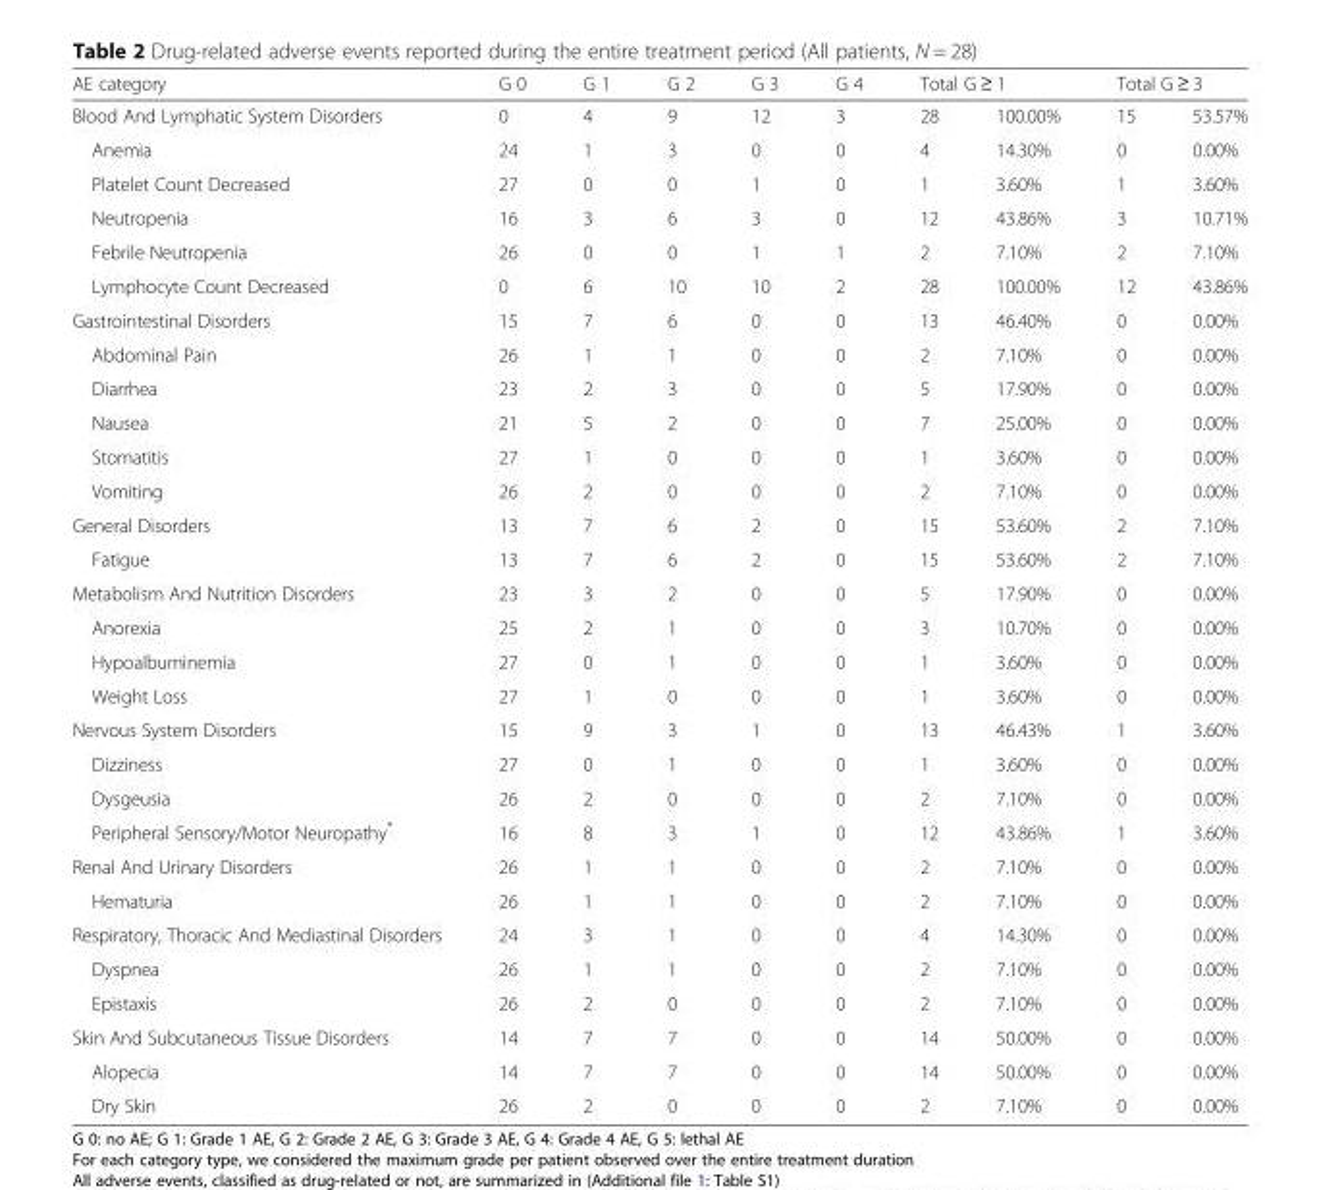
<table><thead><tr><td rowspan="2">AE category Blood And Lymphatic System Disorders</td><td rowspan="2">G 0 0</td><td rowspan="2">G 1 4</td><td rowspan="2">G 2 9</td><td rowspan="2">G 3 12</td><td rowspan="2">G 4 3</td><td colspan="2">Total G ≥ 1</td><td colspan="2">Total G ≥ 3</td></tr><tr><td>28</td><td>100.00%</td><td>15</td><td>53.57%</td></tr></thead><tbody><tr><td>Anemia</td><td>24</td><td>1</td><td>3</td><td>0</td><td>0</td><td>4</td><td>14.30%</td><td>0</td><td>0.00%</td></tr><tr><td>Platelet Count Decreased</td><td>27</td><td>0</td><td>0</td><td>1</td><td>0</td><td>1</td><td>3.60%</td><td>1</td><td>3.60%</td></tr><tr><td>Neutropenia</td><td>16</td><td>3</td><td>6</td><td>3</td><td>0</td><td>12</td><td>43.86%</td><td>3</td><td>10.71%</td></tr><tr><td>Febrile Neutropenia</td><td>26</td><td>0</td><td>0</td><td>1</td><td>1</td><td>2</td><td>7.10%</td><td>2</td><td>7.10%</td></tr><tr><td>Lymphocyte Count Decreased</td><td>0</td><td>6</td><td>10</td><td>10</td><td>2</td><td>28</td><td>100.00%</td><td>12</td><td>43.86%</td></tr><tr><td>Gastrointestinal Disorders</td><td>15</td><td>7</td><td>6</td><td>0</td><td>0</td><td>13</td><td>46.40%</td><td>0</td><td>0.00%</td></tr><tr><td>Abdominal Pain</td><td>26</td><td>1</td><td>1</td><td>0</td><td>0</td><td>2</td><td>7.10%</td><td>0</td><td>0.00%</td></tr><tr><td>Diarrhea</td><td>23</td><td>2</td><td>3</td><td>0</td><td>0</td><td>5</td><td>17.90%</td><td>0</td><td>0.00%</td></tr><tr><td>Nausea</td><td>21</td><td>5</td><td>2</td><td>0</td><td>0</td><td>7</td><td>25.00%</td><td>0</td><td>0.00%</td></tr><tr><td>Stomatitis</td><td>27</td><td>1</td><td>0</td><td>0</td><td>0</td><td>1</td><td>3.60%</td><td>0</td><td>0.00%</td></tr><tr><td>Vomiting</td><td>26</td><td>2</td><td>0</td><td>0</td><td>0</td><td>2</td><td>7.10%</td><td>0</td><td>0.00%</td></tr><tr><td>General Disorders</td><td>13</td><td>7</td><td>6</td><td>2</td><td>0</td><td>15</td><td>53.60%</td><td>2</td><td>7.10%</td></tr><tr><td>Fatigue</td><td>13</td><td>7</td><td>6</td><td>2</td><td>0</td><td>15</td><td>53.60%</td><td>2</td><td>7.10%</td></tr><tr><td>Metabolism And Nutrition Disorders</td><td>23</td><td>3</td><td>2</td><td>0</td><td>0</td><td>5</td><td>17.90%</td><td>0</td><td>0.00%</td></tr><tr><td>Anorexia</td><td>25</td><td>2</td><td>1</td><td>0</td><td>0</td><td>3</td><td>10.70%</td><td>0</td><td>0.00%</td></tr><tr><td>Hypoalbuminemia</td><td>27</td><td>0</td><td>1</td><td>0</td><td>0</td><td>1</td><td>3.60%</td><td>0</td><td>0.00%</td></tr><tr><td>Weight Loss</td><td>27</td><td>1</td><td>0</td><td>0</td><td>0</td><td>1</td><td>3.60%</td><td>0</td><td>0.00%</td></tr><tr><td>Nervous System Disorders</td><td>15</td><td>9</td><td>3</td><td>1</td><td>0</td><td>13</td><td>46.43%</td><td>1</td><td>3.60%</td></tr><tr><td>Dizziness</td><td>27</td><td>0</td><td>1</td><td>0</td><td>0</td><td>1</td><td>3.60%</td><td>0</td><td>0.00%</td></tr><tr><td>Dysgeusia</td><td>26</td><td>2</td><td>0</td><td>0</td><td>0</td><td>2</td><td>7.10%</td><td>0</td><td>0.00%</td></tr><tr><td>Peripheral Sensory/Motor Neuropathy*</td><td>16</td><td>8</td><td>3</td><td>1</td><td>0</td><td>12</td><td>43.86%</td><td>1</td><td>3.60%</td></tr><tr><td>Renal And Urinary Disorders</td><td>26</td><td>1</td><td>1</td><td>0</td><td>0</td><td>2</td><td>7.10%</td><td>0</td><td>0.00%</td></tr><tr><td>Hematuria</td><td>26</td><td>1</td><td>1</td><td>0</td><td>0</td><td>2</td><td>7.10%</td><td>0</td><td>0.00%</td></tr><tr><td>Respiratory, Thoracic And Mediastinal Disorders</td><td>24</td><td>3</td><td>1</td><td>0</td><td>0</td><td>4</td><td>14.30%</td><td>0</td><td>0.00%</td></tr><tr><td>Dyspnea</td><td>26</td><td>1</td><td>1</td><td>0</td><td>0</td><td>2</td><td>7.10%</td><td>0</td><td>0.00%</td></tr><tr><td>Epistaxis</td><td>26</td><td>2</td><td>0</td><td>0</td><td>0</td><td>2</td><td>7.10%</td><td>0</td><td>0.00%</td></tr><tr><td>Skin And Subcutaneous Tissue Disorders</td><td>14</td><td>7</td><td>7</td><td>0</td><td>0</td><td>14</td><td>50.00%</td><td>0</td><td>0.00%</td></tr><tr><td>Alopecia</td><td>14</td><td>7</td><td>7</td><td>0</td><td>0</td><td>14</td><td>50.00%</td><td>0</td><td>0.00%</td></tr><tr><td>Dry Skin</td><td>26</td><td>2</td><td>0</td><td>0</td><td>0</td><td>2</td><td>7.10%</td><td>0</td><td>0.00%</td></tr></tbody></table>